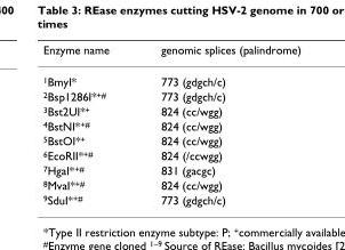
<table><thead><tr><td>Enzyme name</td><td>genomic splices (palindrome)</td></tr></thead><tbody><tr><td><sup>1</sup>BmyI*</td><td>773 (gdgch/c)</td></tr><tr><td><sup>2</sup>Bsp1286I*<sup>+#</sup></td><td>773 (gdgch/c)</td></tr><tr><td><sup>3</sup>Bst2UI*<sup>+</sup></td><td>824 (cc/wgg)</td></tr><tr><td><sup>4</sup>BstNI*<sup>+#</sup></td><td>824 (cc/wgg)</td></tr><tr><td><sup>5</sup>BstOI*<sup>+</sup></td><td>824 (cc/wgg)</td></tr><tr><td><sup>6</sup>EcoRII*<sup>+#</sup></td><td>824 (/ccwgg)</td></tr><tr><td><sup>7</sup>HgaI*<sup>+#</sup></td><td>831 (gacgc)</td></tr><tr><td><sup>8</sup>MvaI*<sup>+#</sup></td><td>824 (cc/wgg)</td></tr><tr><td><sup>9</sup>SduI*<sup>+#</sup></td><td>773 (gdgch/c)</td></tr></tbody></table>